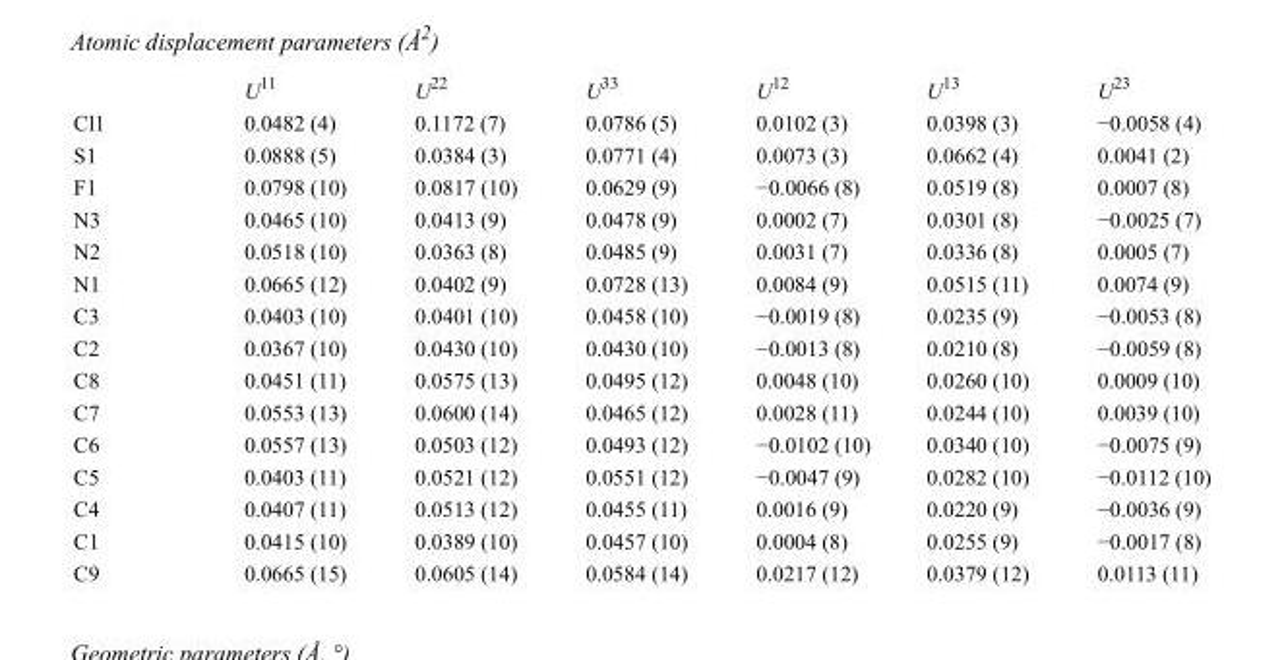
<table><thead><tr><td></td><td>U<sup>11</sup></td><td>U<sup>22</sup></td><td>U<sup>33</sup></td><td>U<sup>12</sup></td><td>U<sup>13</sup></td><td>U<sup>23</sup></td></tr></thead><tbody><tr><td>Cl1</td><td>0.0482 (4)</td><td>0.1172 (7)</td><td>0.0786 (5)</td><td>0.0102 (3)</td><td>0.0398 (3)</td><td>−0.0058 (4)</td></tr><tr><td>S1</td><td>0.0888 (5)</td><td>0.0384 (3)</td><td>0.0771 (4)</td><td>0.0073 (3)</td><td>0.0662 (4)</td><td>0.0041 (2)</td></tr><tr><td>F1</td><td>0.0798 (10)</td><td>0.0817 (10)</td><td>0.0629 (9)</td><td>−0.0066 (8)</td><td>0.0519 (8)</td><td>0.0007 (8)</td></tr><tr><td>N3</td><td>0.0465 (10)</td><td>0.0413 (9)</td><td>0.0478 (9)</td><td>0.0002 (7)</td><td>0.0301 (8)</td><td>−0.0025 (7)</td></tr><tr><td>N2</td><td>0.0518 (10)</td><td>0.0363 (8)</td><td>0.0485 (9)</td><td>0.0031 (7)</td><td>0.0336 (8)</td><td>0.0005 (7)</td></tr><tr><td>N1</td><td>0.0665 (12)</td><td>0.0402 (9)</td><td>0.0728 (13)</td><td>0.0084 (9)</td><td>0.0515 (11)</td><td>0.0074 (9)</td></tr><tr><td>C3</td><td>0.0403 (10)</td><td>0.0401 (10)</td><td>0.0458 (10)</td><td>−0.0019 (8)</td><td>0.0235 (9)</td><td>−0.0053 (8)</td></tr><tr><td>C2</td><td>0.0367 (10)</td><td>0.0430 (10)</td><td>0.0430 (10)</td><td>−0.0013 (8)</td><td>0.0210 (8)</td><td>−0.0059 (8)</td></tr><tr><td>C8</td><td>0.0451 (11)</td><td>0.0575 (13)</td><td>0.0495 (12)</td><td>0.0048 (10)</td><td>0.0260 (10)</td><td>0.0009 (10)</td></tr><tr><td>C7</td><td>0.0553 (13)</td><td>0.0600 (14)</td><td>0.0465 (12)</td><td>0.0028 (11)</td><td>0.0244 (10)</td><td>0.0039 (10)</td></tr><tr><td>C6</td><td>0.0557 (13)</td><td>0.0503 (12)</td><td>0.0493 (12)</td><td>−0.0102 (10)</td><td>0.0340 (10)</td><td>−0.0075 (9)</td></tr><tr><td>C5</td><td>0.0403 (11)</td><td>0.0521 (12)</td><td>0.0551 (12)</td><td>−0.0047 (9)</td><td>0.0282 (10)</td><td>−0.0112 (10)</td></tr><tr><td>C4</td><td>0.0407 (11)</td><td>0.0513 (12)</td><td>0.0455 (11)</td><td>0.0016 (9)</td><td>0.0220 (9)</td><td>−0.0036 (9)</td></tr><tr><td>C1</td><td>0.0415 (10)</td><td>0.0389 (10)</td><td>0.0457 (10)</td><td>0.0004 (8)</td><td>0.0255 (9)</td><td>−0.0017 (8)</td></tr><tr><td>C9</td><td>0.0665 (15)</td><td>0.0605 (14)</td><td>0.0584 (14)</td><td>0.0217 (12)</td><td>0.0379 (12)</td><td>0.0113 (11)</td></tr></tbody></table>